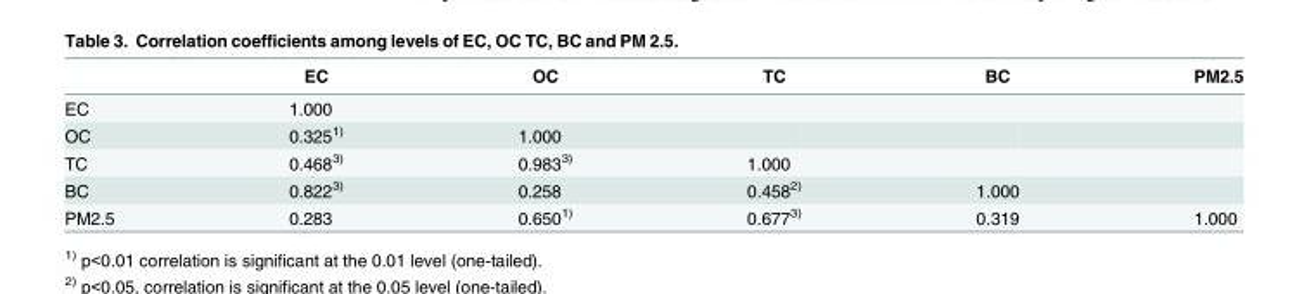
<table><thead><tr><td></td><td>EC</td><td>OC</td><td>TC</td><td>BC</td><td>PM2.5</td></tr></thead><tbody><tr><td>EC</td><td>1.000</td><td></td><td></td><td></td><td></td></tr><tr><td>OC</td><td>0.325<sup>1)</sup></td><td>1.000</td><td></td><td></td><td></td></tr><tr><td>TC</td><td>0.468<sup>3)</sup></td><td>0.983<sup>3)</sup></td><td>1.000</td><td></td><td></td></tr><tr><td>BC</td><td>0.822<sup>3)</sup></td><td>0.258</td><td>0.458<sup>2)</sup></td><td>1.000</td><td></td></tr><tr><td>PM2.5</td><td>0.283</td><td>0.650<sup>1)</sup></td><td>0.677<sup>3)</sup></td><td>0.319</td><td>1.000</td></tr></tbody></table>